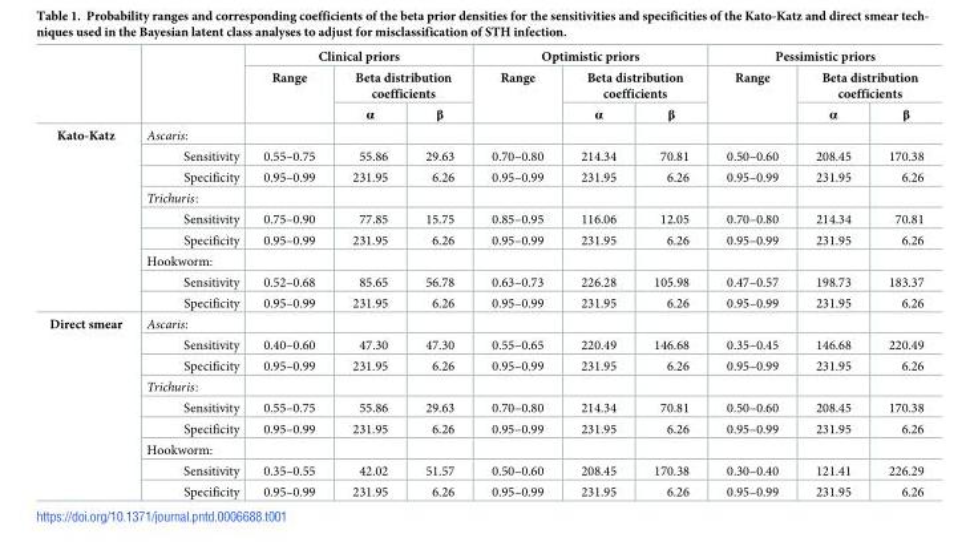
<table><thead><tr><td rowspan="3"></td><td rowspan="3"></td><td colspan="3">Clinical priors</td><td colspan="3">Optimistic priors</td><td colspan="3">Pessimistic priors</td></tr><tr><td rowspan="2">Range</td><td colspan="2">Beta distribution coefficients</td><td rowspan="2">Range</td><td colspan="2">Beta distribution coefficients</td><td rowspan="2">Range</td><td colspan="2">Beta distribution coefficients</td></tr><tr><td>α</td><td>β</td><td>α</td><td>β</td><td>α</td><td>β</td></tr></thead><tbody><tr><td rowspan="9">Kato-Katz</td><td>Ascaris:</td><td></td><td></td><td></td><td></td><td></td><td></td><td></td><td></td><td></td></tr><tr><td>Sensitivity</td><td>0.55–0.75</td><td>55.86</td><td>29.63</td><td>0.70–0.80</td><td>214.34</td><td>70.81</td><td>0.50–0.60</td><td>208.45</td><td>170.38</td></tr><tr><td>Specificity</td><td>0.95–0.99</td><td>231.95</td><td>6.26</td><td>0.95–0.99</td><td>231.95</td><td>6.26</td><td>0.95–0.99</td><td>231.95</td><td>6.26</td></tr><tr><td>Trichuris:</td><td></td><td></td><td></td><td></td><td></td><td></td><td></td><td></td><td></td></tr><tr><td>Sensitivity</td><td>0.75–0.90</td><td>77.85</td><td>15.75</td><td>0.85–0.95</td><td>116.06</td><td>12.05</td><td>0.70–0.80</td><td>214.34</td><td>70.81</td></tr><tr><td>Specificity</td><td>0.95–0.99</td><td>231.95</td><td>6.26</td><td>0.95–0.99</td><td>231.95</td><td>6.26</td><td>0.95–0.99</td><td>231.95</td><td>6.26</td></tr><tr><td>Hookworm:</td><td></td><td></td><td></td><td></td><td></td><td></td><td></td><td></td><td></td></tr><tr><td>Sensitivity</td><td>0.52–0.68</td><td>85.65</td><td>56.78</td><td>0.63–0.73</td><td>226.28</td><td>105.98</td><td>0.47–0.57</td><td>198.73</td><td>183.37</td></tr><tr><td>Specificity</td><td>0.95–0.99</td><td>231.95</td><td>6.26</td><td>0.95–0.99</td><td>231.95</td><td>6.26</td><td>0.95–0.99</td><td>231.95</td><td>6.26</td></tr><tr><td rowspan="9">Direct smear</td><td>Ascaris:</td><td></td><td></td><td></td><td></td><td></td><td></td><td></td><td></td><td></td></tr><tr><td>Sensitivity</td><td>0.40–0.60</td><td>47.30</td><td>47.30</td><td>0.55–0.65</td><td>220.49</td><td>146.68</td><td>0.35–0.45</td><td>146.68</td><td>220.49</td></tr><tr><td>Specificity</td><td>0.95–0.99</td><td>231.95</td><td>6.26</td><td>0.95–0.99</td><td>231.95</td><td>6.26</td><td>0.95–0.99</td><td>231.95</td><td>6.26</td></tr><tr><td>Trichuris:</td><td></td><td></td><td></td><td></td><td></td><td></td><td></td><td></td><td></td></tr><tr><td>Sensitivity</td><td>0.55–0.75</td><td>55.86</td><td>29.63</td><td>0.70–0.80</td><td>214.34</td><td>70.81</td><td>0.50–0.60</td><td>208.45</td><td>170.38</td></tr><tr><td>Specificity</td><td>0.95–0.99</td><td>231.95</td><td>6.26</td><td>0.95–0.99</td><td>231.95</td><td>6.26</td><td>0.95–0.99</td><td>231.95</td><td>6.26</td></tr><tr><td>Hookworm:</td><td></td><td></td><td></td><td></td><td></td><td></td><td></td><td></td><td></td></tr><tr><td>Sensitivity</td><td>0.35–0.55</td><td>42.02</td><td>51.57</td><td>0.50–0.60</td><td>208.45</td><td>170.38</td><td>0.30–0.40</td><td>121.41</td><td>226.29</td></tr><tr><td>Specificity</td><td>0.95–0.99</td><td>231.95</td><td>6.26</td><td>0.95–0.99</td><td>231.95</td><td>6.26</td><td>0.95–0.99</td><td>231.95</td><td>6.26</td></tr></tbody></table>